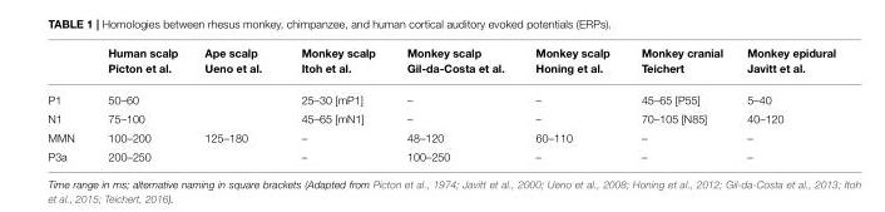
<table><thead><tr><td></td><td>Human scalp Picton et al.</td><td>Ape scalp Ueno et al.</td><td>Monkey scalp Itoh et al.</td><td>Monkey scalp Gil-da-Costa et al.</td><td>Monkey scalp Honing et al.</td><td>Monkey cranial Teichert</td><td>Monkey epidural Javitt et al.</td></tr></thead><tbody><tr><td>P1</td><td>50–60</td><td></td><td>25–30 [mP1]</td><td>–</td><td>–</td><td>45–65 [P55]</td><td>5–40</td></tr><tr><td>N1</td><td>75–100</td><td></td><td>45–65 [mN1]</td><td>–</td><td>–</td><td>70–105 [N85]</td><td>40–120</td></tr><tr><td>MMN</td><td>100–200</td><td>125–180</td><td>–</td><td>48–120</td><td>60–110</td><td>–</td><td>–</td></tr><tr><td>P3a</td><td>200–250</td><td></td><td>–</td><td>100–250</td><td>–</td><td>–</td><td>–</td></tr></tbody></table>